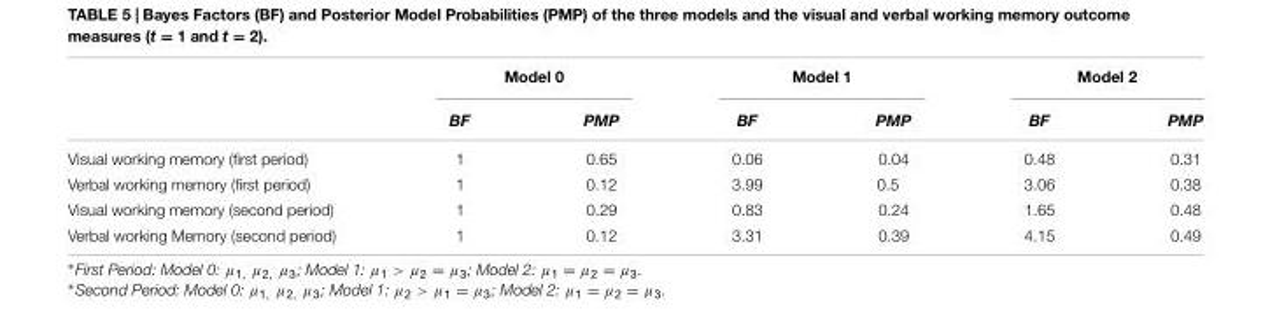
<table><thead><tr><td rowspan="2"></td><td colspan="2">Model 0</td><td colspan="2">Model 1</td><td colspan="2">Model 2</td></tr><tr><td>BF</td><td>PMP</td><td>BF</td><td>PMP</td><td>BF</td><td>PMP</td></tr></thead><tbody><tr><td>Visual working memory (first period)</td><td>1</td><td>0.65</td><td>0.06</td><td>0.04</td><td>0.48</td><td>0.31</td></tr><tr><td>Verbal working memory (first period)</td><td>1</td><td>0.12</td><td>3.99</td><td>0.5</td><td>3.06</td><td>0.38</td></tr><tr><td>Visual working memory (second period)</td><td>1</td><td>0.29</td><td>0.83</td><td>0.24</td><td>1.65</td><td>0.48</td></tr><tr><td>Verbal working Memory (second period)</td><td>1</td><td>0.12</td><td>3.31</td><td>0.39</td><td>4.15</td><td>0.49</td></tr></tbody></table>